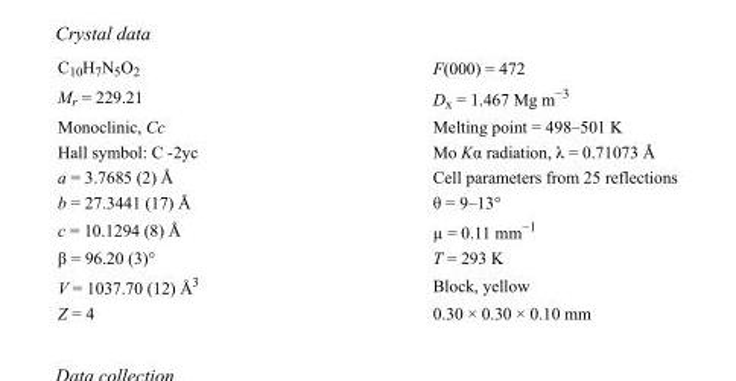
<table><tbody><tr><td>C<sub>10</sub>H<sub>7</sub>N<sub>5</sub>O<sub>2</sub></td><td>F(000) = 472</td></tr><tr><td>M<sub>r</sub> = 229.21</td><td>D<sub>x</sub> = 1.467 Mg m<sup>−3</sup></td></tr><tr><td>Monoclinic, Cc</td><td>Melting point = 498–501 K</td></tr><tr><td>Hall symbol: C -2yc</td><td>Mo Kα radiation, λ = 0.71073 Å</td></tr><tr><td>a = 3.7685 (2) Å</td><td>Cell parameters from 25 reflections</td></tr><tr><td>b = 27.3441 (17) Å</td><td>θ = 9–13°</td></tr><tr><td>c = 10.1294 (8) Å</td><td>µ = 0.11 mm<sup>−1</sup></td></tr><tr><td>β = 96.20 (3)°</td><td>T = 293 K</td></tr><tr><td>V = 1037.70 (12) Å<sup>3</sup></td><td>Block, yellow</td></tr><tr><td>Z = 4</td><td>0.30 × 0.30 × 0.10 mm</td></tr></tbody></table>